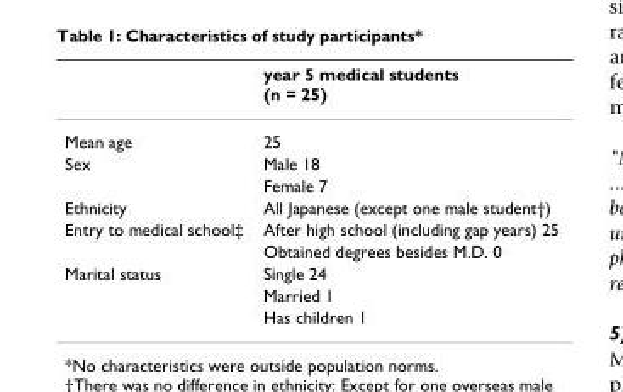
<table><thead><tr><td></td><td>year 5 medical students (n = 25)</td></tr></thead><tbody><tr><td>Mean age</td><td>25</td></tr><tr><td rowspan="2">Sex</td><td>Male 18</td></tr><tr><td>Female 7</td></tr><tr><td>Ethnicity</td><td>All Japanese (except one male student†)</td></tr><tr><td rowspan="2">Entry to medical school‡</td><td>After high school (including gap years) 25</td></tr><tr><td>Obtained degrees besides M.D. 0</td></tr><tr><td rowspan="3">Marital status</td><td>Single 24</td></tr><tr><td>Married 1</td></tr><tr><td>Has children 1</td></tr></tbody></table>